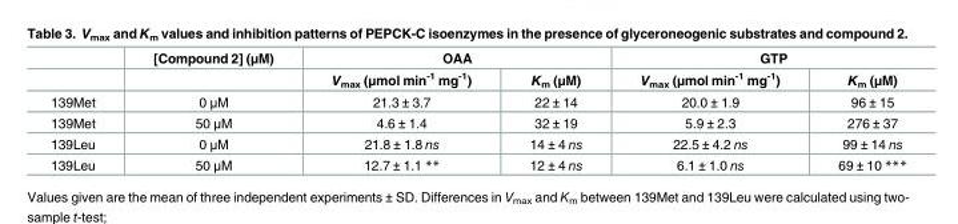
<table><thead><tr><td rowspan="2"></td><td rowspan="2">[Compound 2] (μM)</td><td colspan="2">OAA</td><td colspan="2">GTP</td></tr><tr><td>V<sub>max</sub> (μmol min<sup>-1</sup> mg<sup>-1</sup>)</td><td>K<sub>m</sub> (μM)</td><td>V<sub>max</sub> (μmol min<sup>-1</sup> mg<sup>-1</sup>)</td><td>K<sub>m</sub> (μM)</td></tr></thead><tbody><tr><td>139Met</td><td>0 μM</td><td>21.3 ± 3.7</td><td>22 ± 14</td><td>20.0 ± 1.9</td><td>96 ± 15</td></tr><tr><td>139Met</td><td>50 μM</td><td>4.6 ± 1.4</td><td>32 ± 19</td><td>5.9 ± 2.3</td><td>276 ± 37</td></tr><tr><td>139Leu</td><td>0 μM</td><td>21.8 ± 1.8 ns</td><td>14 ± 4 ns</td><td>22.5 ± 4.2 ns</td><td>99 ± 14 ns</td></tr><tr><td>139Leu</td><td>50 μM</td><td>12.7 ± 1.1 **</td><td>12 ± 4 ns</td><td>6.1 ± 1.0 ns</td><td>69 ± 10 ***</td></tr></tbody></table>